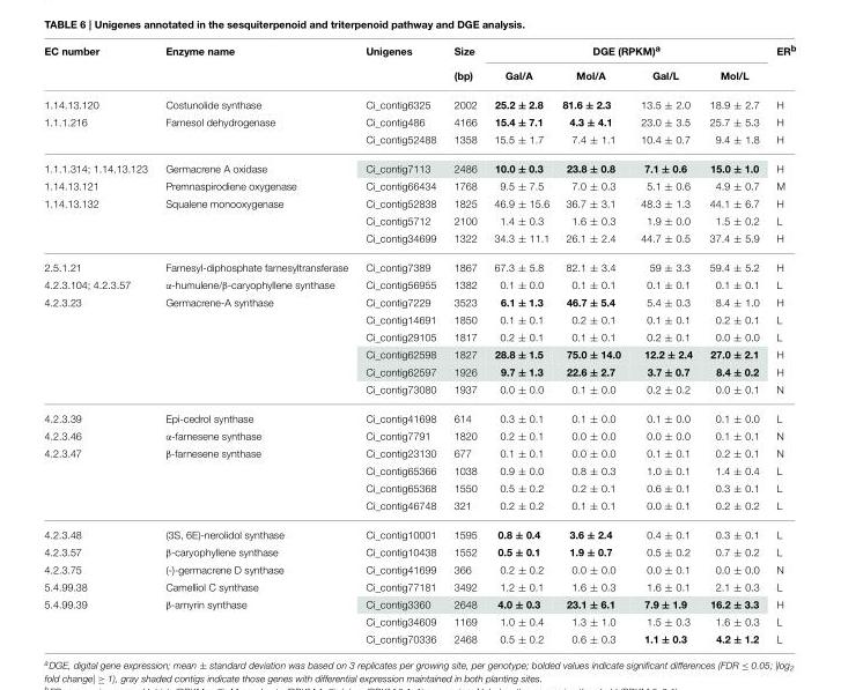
<table><thead><tr><td rowspan="2">EC number</td><td rowspan="2">Enzyme name</td><td rowspan="2">Unigenes</td><td rowspan="2">Size (bp)</td><td colspan="4">DGE (RPKM)<sup>a</sup></td><td rowspan="2">ER<sup>b</sup></td></tr><tr><td>Gal/A</td><td>Mol/A</td><td>Gal/L</td><td>Mol/L</td></tr></thead><tbody><tr><td>1.14.13.120</td><td>Costunolide synthase</td><td>Ci_contig6325</td><td>2002</td><td>25.2 ± 2.8</td><td>81.6 ± 2.3</td><td>13.5 ± 2.0</td><td>18.9 ± 2.7</td><td>H</td></tr><tr><td rowspan="2">1.1.1.216</td><td>Farnesol dehydrogenase</td><td>Ci_contig486</td><td>4166</td><td>15.4 ± 7.1</td><td>4.3 ± 4.1</td><td>23.0 ± 3.5</td><td>25.7 ± 5.3</td><td>H</td></tr><tr><td></td><td>Ci_contig52488</td><td>1358</td><td>15.5 ± 1.7</td><td>7.4 ± 1.1</td><td>10.4 ± 0.7</td><td>9.4 ± 1.8</td><td>H</td></tr><tr><td>1.1.1.314; 1.14.13.123</td><td>Germacrene A oxidase</td><td>Ci_contig7113</td><td>2486</td><td>10.0 ± 0.3</td><td>23.8 ± 0.8</td><td>7.1 ± 0.6</td><td>15.0 ± 1.0</td><td>H</td></tr><tr><td>1.14.13.121</td><td>Premnaspirodiene oxygenase</td><td>Ci_contig66434</td><td>1768</td><td>9.5 ± 7.5</td><td>7.0 ± 0.3</td><td>5.1 ± 0.6</td><td>4.9 ± 0.7</td><td>M</td></tr><tr><td rowspan="3">1.14.13.132</td><td>Squalene monooxygenase</td><td>Ci_contig52838</td><td>1825</td><td>46.9 ± 15.6</td><td>36.7 ± 3.1</td><td>48.3 ± 1.3</td><td>44.1 ± 6.7</td><td>H</td></tr><tr><td></td><td>Ci_contig5712</td><td>2100</td><td>1.4 ± 0.3</td><td>1.6 ± 0.3</td><td>1.9 ± 0.0</td><td>1.5 ± 0.2</td><td>L</td></tr><tr><td></td><td>Ci_contig34699</td><td>1322</td><td>34.3 ± 11.1</td><td>26.1 ± 2.4</td><td>44.7 ± 0.5</td><td>37.4 ± 5.9</td><td>H</td></tr><tr><td>2.5.1.21</td><td>Farnesyl-diphosphate farnesyltransferase</td><td>Ci_contig7389</td><td>1867</td><td>67.3 ± 5.8</td><td>82.1 ± 3.4</td><td>59 ± 3.3</td><td>59.4 ± 5.2</td><td>H</td></tr><tr><td>4.2.3.104; 4.2.3.57</td><td>α-humulene/β-caryophyllene synthase</td><td>Ci_contig56955</td><td>1382</td><td>0.1 ± 0.0</td><td>0.1 ± 0.1</td><td>0.1 ± 0.1</td><td>0.1 ± 0.1</td><td>L</td></tr><tr><td rowspan="6">4.2.3.23</td><td>Germacrene-A synthase</td><td>Ci_contig7229</td><td>3523</td><td>6.1 ± 1.3</td><td>46.7 ± 5.4</td><td>5.4 ± 0.3</td><td>8.4 ± 1.0</td><td>H</td></tr><tr><td></td><td>Ci_contig14691</td><td>1850</td><td>0.1 ± 0.1</td><td>0.2 ± 0.1</td><td>0.1 ± 0.1</td><td>0.2 ± 0.1</td><td>L</td></tr><tr><td></td><td>Ci_contig29105</td><td>1817</td><td>0.2 ± 0.1</td><td>0.1 ± 0.1</td><td>0.2 ± 0.1</td><td>0.0 ± 0.0</td><td>L</td></tr><tr><td></td><td>Ci_contig62598</td><td>1827</td><td>28.8 ± 1.5</td><td>75.0 ± 14.0</td><td>12.2 ± 2.4</td><td>27.0 ± 2.1</td><td>H</td></tr><tr><td></td><td>Ci_contig62597</td><td>1926</td><td>9.7 ± 1.3</td><td>22.6 ± 2.7</td><td>3.7 ± 0.7</td><td>8.4 ± 0.2</td><td>H</td></tr><tr><td></td><td>Ci_contig73080</td><td>1937</td><td>0.0 ± 0.0</td><td>0.1 ± 0.0</td><td>0.2 ± 0.2</td><td>0.0 ± 0.1</td><td>N</td></tr><tr><td>4.2.3.39</td><td>Epi-cedrol synthase</td><td>Ci_contig41698</td><td>614</td><td>0.3 ± 0.1</td><td>0.1 ± 0.0</td><td>0.1 ± 0.0</td><td>0.1 ± 0.0</td><td>L</td></tr><tr><td>4.2.3.46</td><td>α-farnesene synthase</td><td>Ci_contig7791</td><td>1820</td><td>0.2 ± 0.1</td><td>0.0 ± 0.0</td><td>0.0 ± 0.0</td><td>0.1 ± 0.1</td><td>N</td></tr><tr><td rowspan="4">4.2.3.47</td><td>β-farnesene synthase</td><td>Ci_contig23130</td><td>677</td><td>0.1 ± 0.1</td><td>0.0 ± 0.0</td><td>0.1 ± 0.1</td><td>0.2 ± 0.1</td><td>N</td></tr><tr><td></td><td>Ci_contig65366</td><td>1038</td><td>0.9 ± 0.0</td><td>0.8 ± 0.3</td><td>1.0 ± 0.1</td><td>1.4 ± 0.4</td><td>L</td></tr><tr><td></td><td>Ci_contig65368</td><td>1550</td><td>0.5 ± 0.2</td><td>0.2 ± 0.1</td><td>0.6 ± 0.1</td><td>0.3 ± 0.1</td><td>L</td></tr><tr><td></td><td>Ci_contig46748</td><td>321</td><td>0.2 ± 0.2</td><td>0.1 ± 0.1</td><td>0.0 ± 0.1</td><td>0.2 ± 0.2</td><td>L</td></tr><tr><td>4.2.3.48</td><td>(3S, 6E)-nerolidol synthase</td><td>Ci_contig10001</td><td>1595</td><td>0.8 ± 0.4</td><td>3.6 ± 2.4</td><td>0.4 ± 0.1</td><td>0.3 ± 0.1</td><td>L</td></tr><tr><td>4.2.3.57</td><td>β-caryophyllene synthase</td><td>Ci_contig10438</td><td>1552</td><td>0.5 ± 0.1</td><td>1.9 ± 0.7</td><td>0.5 ± 0.2</td><td>0.7 ± 0.2</td><td>L</td></tr><tr><td>4.2.3.75</td><td>(-)-germacrene D synthase</td><td>Ci_contig41699</td><td>366</td><td>0.2 ± 0.2</td><td>0.0 ± 0.0</td><td>0.0 ± 0.1</td><td>0.0 ± 0.0</td><td>N</td></tr><tr><td>5.4.99.38</td><td>Camelliol C synthase</td><td>Ci_contig77181</td><td>3492</td><td>1.2 ± 0.1</td><td>1.6 ± 0.3</td><td>1.6 ± 0.1</td><td>2.1 ± 0.3</td><td>L</td></tr><tr><td rowspan="3">5.4.99.39</td><td>β-amyrin synthase</td><td>Ci_contig3360</td><td>2648</td><td>4.0 ± 0.3</td><td>23.1 ± 6.1</td><td>7.9 ± 1.9</td><td>16.2 ± 3.3</td><td>H</td></tr><tr><td></td><td>Ci_contig34609</td><td>1169</td><td>1.0 ± 0.4</td><td>1.3 ± 1.0</td><td>1.5 ± 0.3</td><td>1.6 ± 0.3</td><td>L</td></tr><tr><td></td><td>Ci_contig70336</td><td>2468</td><td>0.5 ± 0.2</td><td>0.6 ± 0.3</td><td>1.1 ± 0.3</td><td>4.2 ± 1.2</td><td>L</td></tr></tbody></table>